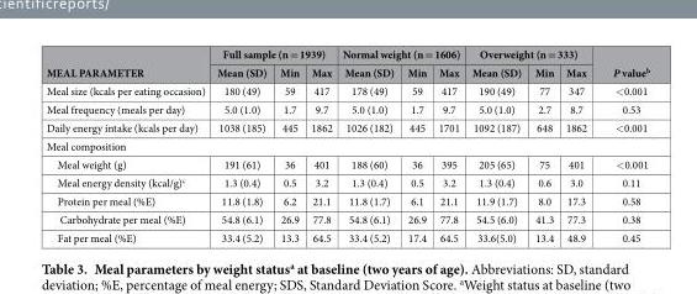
<table><thead><tr><td rowspan="2">MEAL PARAMETER</td><td colspan="3">Full sample (n = 1939)</td><td colspan="3">Normal weight (n = 1606)</td><td colspan="3">Overweight (n = 333)</td><td rowspan="2">P value<sup>b</sup></td></tr><tr><td>Mean (SD)</td><td>Min</td><td>Max</td><td>Mean (SD)</td><td>Min</td><td>Max</td><td>Mean (SD)</td><td>Min</td><td>Max</td></tr></thead><tbody><tr><td>Meal size (kcals per eating occasion)</td><td>180 (49)</td><td>59</td><td>417</td><td>178 (49)</td><td>59</td><td>417</td><td>190 (49)</td><td>77</td><td>347</td><td>&lt; 0.001</td></tr><tr><td>Meal frequency (meals per day)</td><td>5.0 (1.0)</td><td>1.7</td><td>9.7</td><td>5.0 (1.0)</td><td>1.7</td><td>9.7</td><td>5.0 (1.0)</td><td>2.7</td><td>8.7</td><td>0.53</td></tr><tr><td>Daily energy intake (kcals per day)</td><td>1038 (185)</td><td>445</td><td>1862</td><td>1026 (182)</td><td>445</td><td>1701</td><td>1092 (187)</td><td>648</td><td>1862</td><td>&lt; 0.001</td></tr><tr><td colspan="11">Meal composition</td></tr><tr><td>Meal weight (g)</td><td>191 (61)</td><td>36</td><td>401</td><td>188 (60)</td><td>36</td><td>395</td><td>205 (65)</td><td>75</td><td>401</td><td>&lt; 0.001</td></tr><tr><td>Meal energy density (kcal/g)<sup>c</sup></td><td>1.3 (0.4)</td><td>0.5</td><td>3.2</td><td>1.3 (0.4)</td><td>0.5</td><td>3.2</td><td>1.3 (0.4)</td><td>0.6</td><td>3.0</td><td>0.11</td></tr><tr><td>Protein per meal (%E)</td><td>11.8 (1.8)</td><td>6.2</td><td>21.1</td><td>11.8 (1.7)</td><td>6.1</td><td>21.1</td><td>11.9 (1.7)</td><td>8.0</td><td>17.3</td><td>0.58</td></tr><tr><td>Carbohydrate per meal (%E)</td><td>54.8 (6.1)</td><td>26.9</td><td>77.8</td><td>54.8 (6.1)</td><td>26.9</td><td>77.8</td><td>54.5 (6.0)</td><td>41.3</td><td>77.3</td><td>0.38</td></tr><tr><td>Fat per meal (%E)</td><td>33.4 (5.2)</td><td>13.3</td><td>64.5</td><td>33.4 (5.2)</td><td>17.4</td><td>64.5</td><td>33.6(5.0)</td><td>13.4</td><td>48.9</td><td>0.45</td></tr></tbody></table>